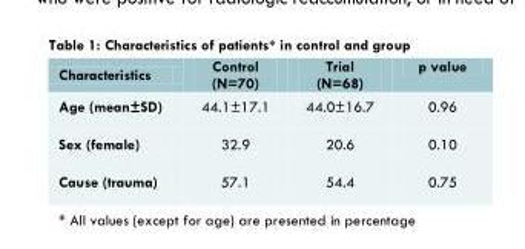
<table><thead><tr><td>Characteristics</td><td>Control (N=70)</td><td>Trial (N=68)</td><td>p value</td></tr></thead><tbody><tr><td>Age (mean±SD)</td><td>44.1±17.1</td><td>44.0±16.7</td><td>0.96</td></tr><tr><td>Sex (female)</td><td>32.9</td><td>20.6</td><td>0.10</td></tr><tr><td>Cause (trauma)</td><td>57.1</td><td>54.4</td><td>0.75</td></tr></tbody></table>